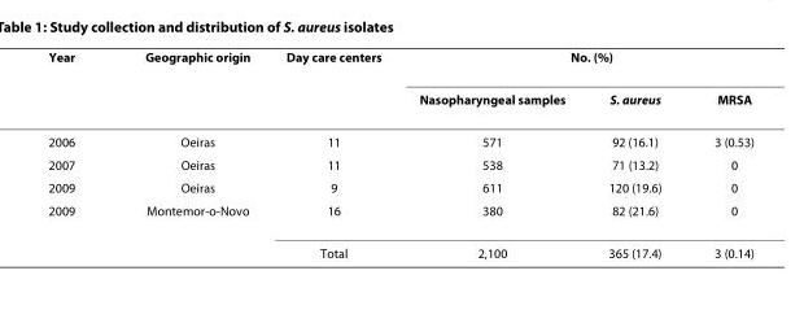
<table><thead><tr><td rowspan="2">Year</td><td rowspan="2">Geographic origin</td><td rowspan="2">Day care centers</td><td colspan="3">No. (%)</td></tr><tr><td>Nasopharyngeal samples</td><td>S. aureus</td><td>MRSA</td></tr></thead><tbody><tr><td>2006</td><td>Oeiras</td><td>11</td><td>571</td><td>92 (16.1)</td><td>3 (0.53)</td></tr><tr><td>2007</td><td>Oeiras</td><td>11</td><td>538</td><td>71 (13.2)</td><td>0</td></tr><tr><td>2009</td><td>Oeiras</td><td>9</td><td>611</td><td>120 (19.6)</td><td>0</td></tr><tr><td rowspan="2">2009</td><td>Montemor-o-Novo</td><td>16</td><td>380</td><td>82 (21.6)</td><td>0</td></tr><tr><td></td><td>Total</td><td>2,100</td><td>365 (17.4)</td><td>3 (0.14)</td></tr></tbody></table>